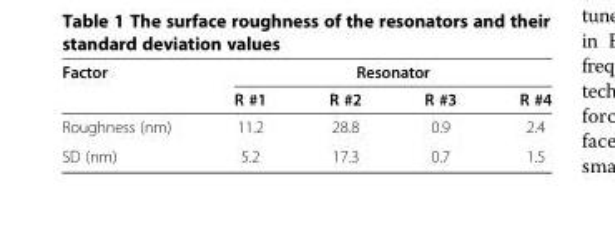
<table><thead><tr><td rowspan="2">Factor</td><td colspan="4">Resonator</td></tr><tr><td>R #1</td><td>R #2</td><td>R #3</td><td>R #4</td></tr></thead><tbody><tr><td>Roughness (nm)</td><td>11.2</td><td>28.8</td><td>0.9</td><td>2.4</td></tr><tr><td>SD (nm)</td><td>5.2</td><td>17.3</td><td>0.7</td><td>1.5</td></tr></tbody></table>